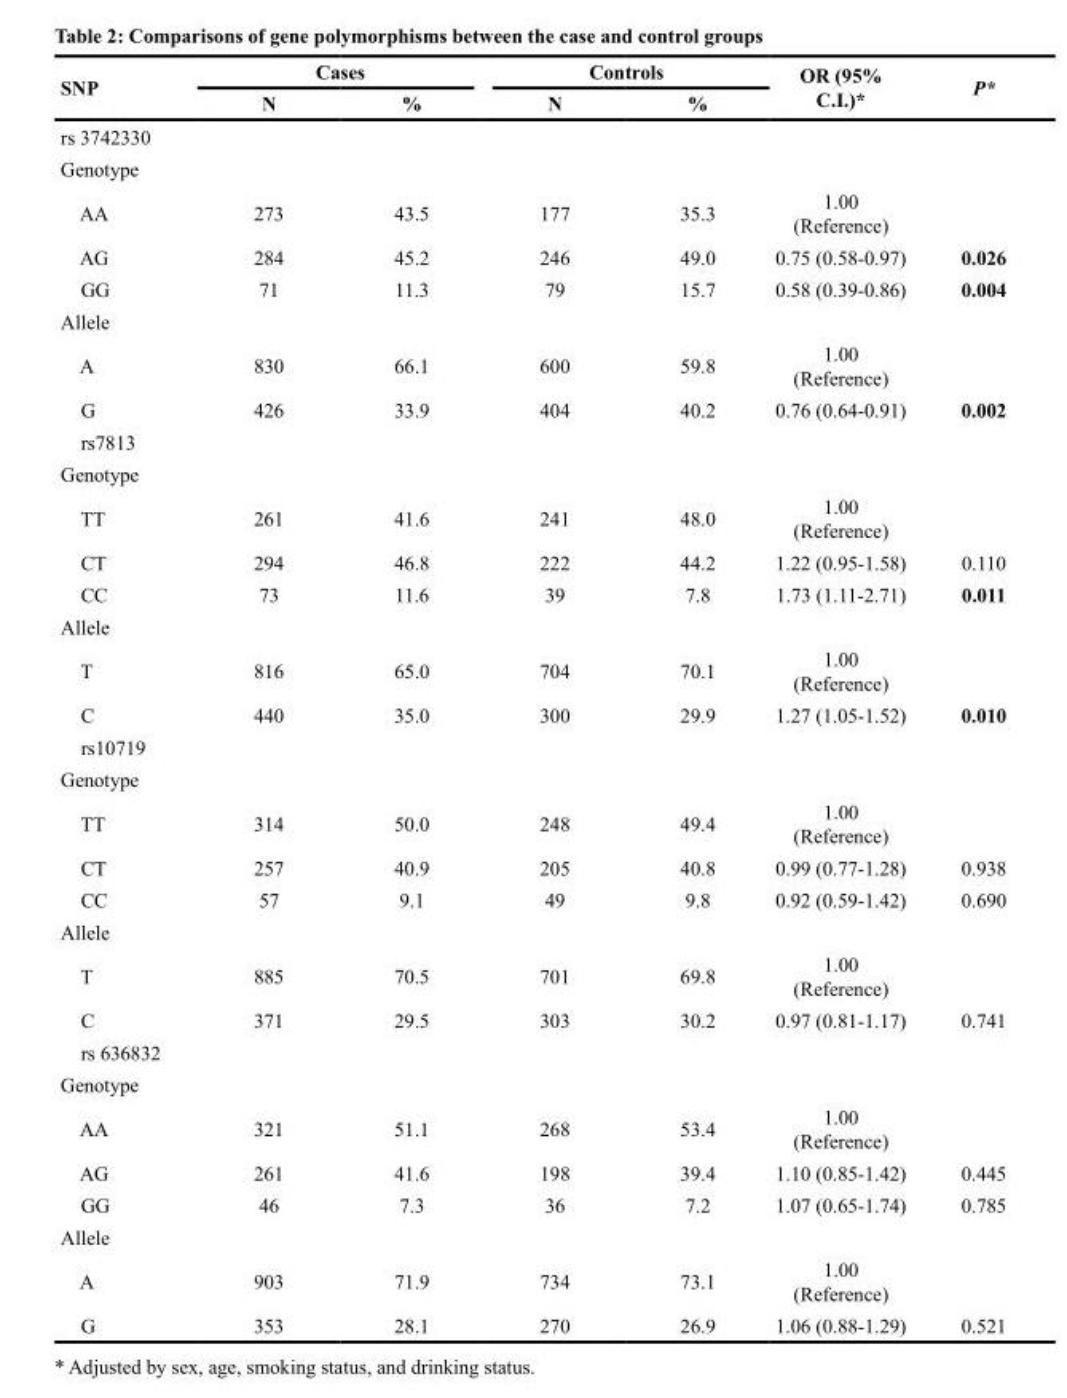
<table><thead><tr><td rowspan="2">SNP</td><td colspan="2">Cases</td><td colspan="2">Controls</td><td rowspan="2">OR (95% C.I.)*</td><td rowspan="2">P*</td></tr><tr><td>N</td><td>%</td><td>N</td><td>%</td></tr></thead><tbody><tr><td colspan="7">rs 3742330</td></tr><tr><td colspan="7">Genotype</td></tr><tr><td>AA</td><td>273</td><td>43.5</td><td>177</td><td>35.3</td><td>1.00 (Reference)</td><td></td></tr><tr><td>AG</td><td>284</td><td>45.2</td><td>246</td><td>49.0</td><td>0.75 (0.58-0.97)</td><td>0.026</td></tr><tr><td>GG</td><td>71</td><td>11.3</td><td>79</td><td>15.7</td><td>0.58 (0.39-0.86)</td><td>0.004</td></tr><tr><td colspan="7">Allele</td></tr><tr><td>A</td><td>830</td><td>66.1</td><td>600</td><td>59.8</td><td>1.00 (Reference)</td><td></td></tr><tr><td>G</td><td>426</td><td>33.9</td><td>404</td><td>40.2</td><td>0.76 (0.64-0.91)</td><td>0.002</td></tr><tr><td colspan="7">rs7813</td></tr><tr><td colspan="7">Genotype</td></tr><tr><td>TT</td><td>261</td><td>41.6</td><td>241</td><td>48.0</td><td>1.00 (Reference)</td><td></td></tr><tr><td>CT</td><td>294</td><td>46.8</td><td>222</td><td>44.2</td><td>1.22 (0.95-1.58)</td><td>0.110</td></tr><tr><td>CC</td><td>73</td><td>11.6</td><td>39</td><td>7.8</td><td>1.73 (1.11-2.71)</td><td>0.011</td></tr><tr><td colspan="7">Allele</td></tr><tr><td>T</td><td>816</td><td>65.0</td><td>704</td><td>70.1</td><td>1.00 (Reference)</td><td></td></tr><tr><td>C</td><td>440</td><td>35.0</td><td>300</td><td>29.9</td><td>1.27 (1.05-1.52)</td><td>0.010</td></tr><tr><td colspan="7">rs10719</td></tr><tr><td colspan="7">Genotype</td></tr><tr><td>TT</td><td>314</td><td>50.0</td><td>248</td><td>49.4</td><td>1.00 (Reference)</td><td></td></tr><tr><td>CT</td><td>257</td><td>40.9</td><td>205</td><td>40.8</td><td>0.99 (0.77-1.28)</td><td>0.938</td></tr><tr><td>CC</td><td>57</td><td>9.1</td><td>49</td><td>9.8</td><td>0.92 (0.59-1.42)</td><td>0.690</td></tr><tr><td colspan="7">Allele</td></tr><tr><td>T</td><td>885</td><td>70.5</td><td>701</td><td>69.8</td><td>1.00 (Reference)</td><td></td></tr><tr><td>C</td><td>371</td><td>29.5</td><td>303</td><td>30.2</td><td>0.97 (0.81-1.17)</td><td>0.741</td></tr><tr><td colspan="7">rs 636832</td></tr><tr><td colspan="7">Genotype</td></tr><tr><td>AA</td><td>321</td><td>51.1</td><td>268</td><td>53.4</td><td>1.00 (Reference)</td><td></td></tr><tr><td>AG</td><td>261</td><td>41.6</td><td>198</td><td>39.4</td><td>1.10 (0.85-1.42)</td><td>0.445</td></tr><tr><td>GG</td><td>46</td><td>7.3</td><td>36</td><td>7.2</td><td>1.07 (0.65-1.74)</td><td>0.785</td></tr><tr><td colspan="7">Allele</td></tr><tr><td>A</td><td>903</td><td>71.9</td><td>734</td><td>73.1</td><td>1.00 (Reference)</td><td></td></tr><tr><td>G</td><td>353</td><td>28.1</td><td>270</td><td>26.9</td><td>1.06 (0.88-1.29)</td><td>0.521</td></tr></tbody></table>